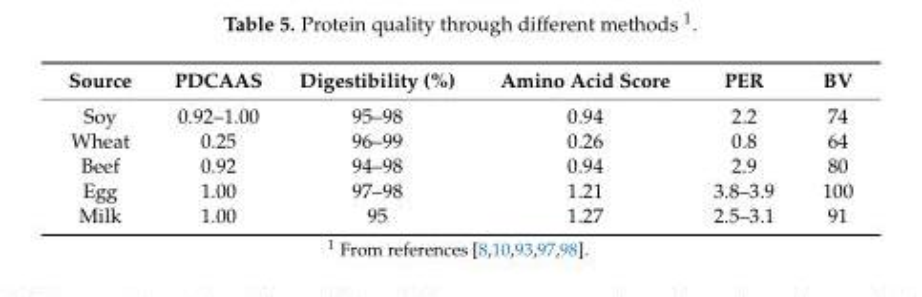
<table><thead><tr><td>Source</td><td>PDCAAS</td><td>Digestibility (%)</td><td>Amino Acid Score</td><td>PER</td><td>BV</td></tr></thead><tbody><tr><td>Soy</td><td>0.92–1.00</td><td>95–98</td><td>0.94</td><td>2.2</td><td>74</td></tr><tr><td>Wheat</td><td>0.25</td><td>96–99</td><td>0.26</td><td>0.8</td><td>64</td></tr><tr><td>Beef</td><td>0.92</td><td>94–98</td><td>0.94</td><td>2.9</td><td>80</td></tr><tr><td>Egg</td><td>1.00</td><td>97–98</td><td>1.21</td><td>3.8–3.9</td><td>100</td></tr><tr><td>Milk</td><td>1.00</td><td>95</td><td>1.27</td><td>2.5–3.1</td><td>91</td></tr></tbody></table>